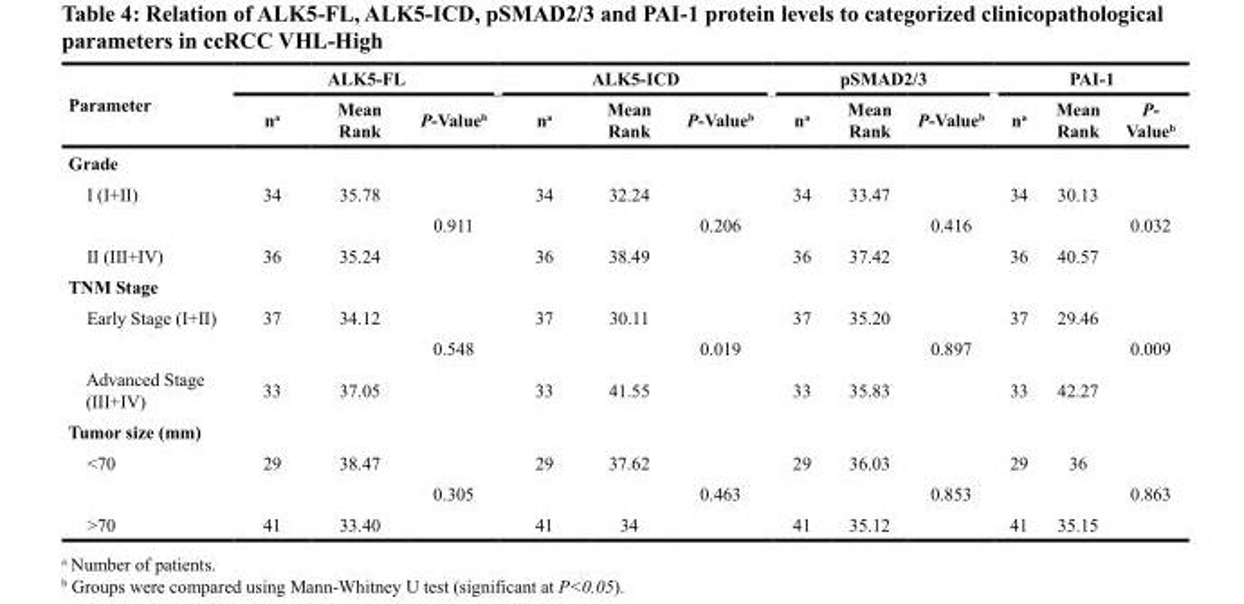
<table><thead><tr><td rowspan="2">Parameter</td><td colspan="3">ALK5-FL</td><td colspan="3">ALK5-ICD</td><td colspan="3">pSMAD2/3</td><td colspan="3">PAI-1</td></tr><tr><td>n<sup>a</sup></td><td>Mean Rank</td><td>P-Value<sup>b</sup></td><td>n<sup>a</sup></td><td>Mean Rank</td><td>P-Value<sup>b</sup></td><td>n<sup>a</sup></td><td>Mean Rank</td><td>P-Value<sup>b</sup></td><td>n<sup>a</sup></td><td>Mean Rank</td><td>P- Value<sup>b</sup></td></tr></thead><tbody><tr><td colspan="13">Grade</td></tr><tr><td rowspan="2">I (I+II)</td><td>34</td><td>35.78</td><td></td><td>34</td><td>32.24</td><td></td><td>34</td><td>33.47</td><td></td><td>34</td><td>30.13</td><td></td></tr><tr><td></td><td></td><td>0.911</td><td></td><td></td><td>0.206</td><td></td><td></td><td>0.416</td><td></td><td></td><td>0.032</td></tr><tr><td>II (III+IV)</td><td>36</td><td>35.24</td><td></td><td>36</td><td>38.49</td><td></td><td>36</td><td>37.42</td><td></td><td>36</td><td>40.57</td><td></td></tr><tr><td colspan="13">TNM Stage</td></tr><tr><td rowspan="2">Early Stage (I+II)</td><td>37</td><td>34.12</td><td></td><td>37</td><td>30.11</td><td></td><td>37</td><td>35.20</td><td></td><td>37</td><td>29.46</td><td></td></tr><tr><td></td><td></td><td>0.548</td><td></td><td></td><td>0.019</td><td></td><td></td><td>0.897</td><td></td><td></td><td>0.009</td></tr><tr><td>Advanced Stage (III+IV)</td><td>33</td><td>37.05</td><td></td><td>33</td><td>41.55</td><td></td><td>33</td><td>35.83</td><td></td><td>33</td><td>42.27</td><td></td></tr><tr><td colspan="13">Tumor size (mm)</td></tr><tr><td rowspan="2">&lt;70</td><td>29</td><td>38.47</td><td></td><td>29</td><td>37.62</td><td></td><td>29</td><td>36.03</td><td></td><td>29</td><td>36</td><td></td></tr><tr><td></td><td></td><td>0.305</td><td></td><td></td><td>0.463</td><td></td><td></td><td>0.853</td><td></td><td></td><td>0.863</td></tr><tr><td>&gt;70</td><td>41</td><td>33.40</td><td></td><td>41</td><td>34</td><td></td><td>41</td><td>35.12</td><td></td><td>41</td><td>35.15</td><td></td></tr></tbody></table>